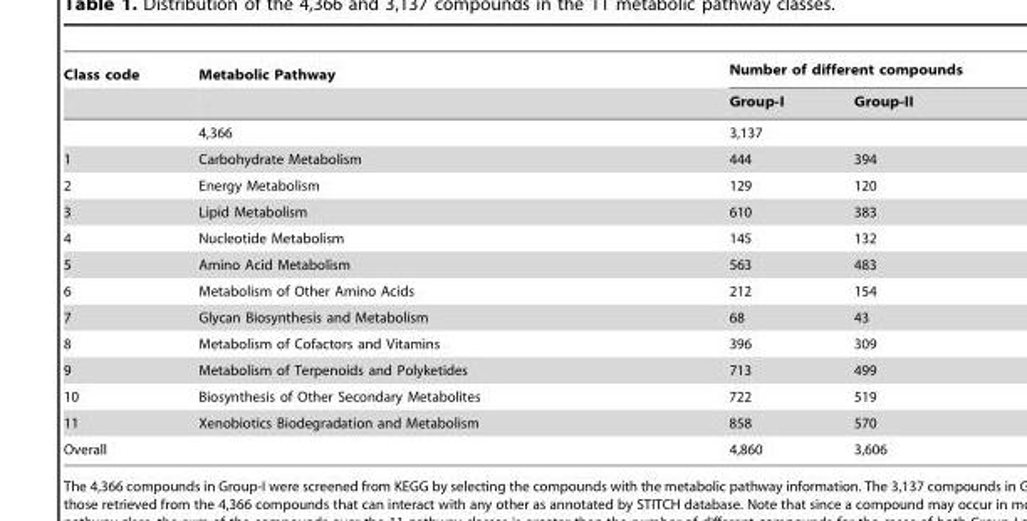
<table><thead><tr><td rowspan="2">Class code</td><td rowspan="2">Metabolic Pathway</td><td colspan="2">Number of different compounds</td></tr><tr><td>Group-I</td><td>Group-II</td></tr></thead><tbody><tr><td></td><td>4,366</td><td>3,137</td><td></td></tr><tr><td>1</td><td>Carbohydrate Metabolism</td><td>444</td><td>394</td></tr><tr><td>2</td><td>Energy Metabolism</td><td>129</td><td>120</td></tr><tr><td>3</td><td>Lipid Metabolism</td><td>610</td><td>383</td></tr><tr><td>4</td><td>Nucleotide Metabolism</td><td>145</td><td>132</td></tr><tr><td>5</td><td>Amino Acid Metabolism</td><td>563</td><td>483</td></tr><tr><td>6</td><td>Metabolism of Other Amino Acids</td><td>212</td><td>154</td></tr><tr><td>7</td><td>Glycan Biosynthesis and Metabolism</td><td>68</td><td>43</td></tr><tr><td>8</td><td>Metabolism of Cofactors and Vitamins</td><td>396</td><td>309</td></tr><tr><td>9</td><td>Metabolism of Terpenoids and Polyketides</td><td>713</td><td>499</td></tr><tr><td>10</td><td>Biosynthesis of Other Secondary Metabolites</td><td>722</td><td>519</td></tr><tr><td>11</td><td>Xenobiotics Biodegradation and Metabolism</td><td>858</td><td>570</td></tr><tr><td colspan="2">Overall</td><td>4,860</td><td>3,606</td></tr></tbody></table>